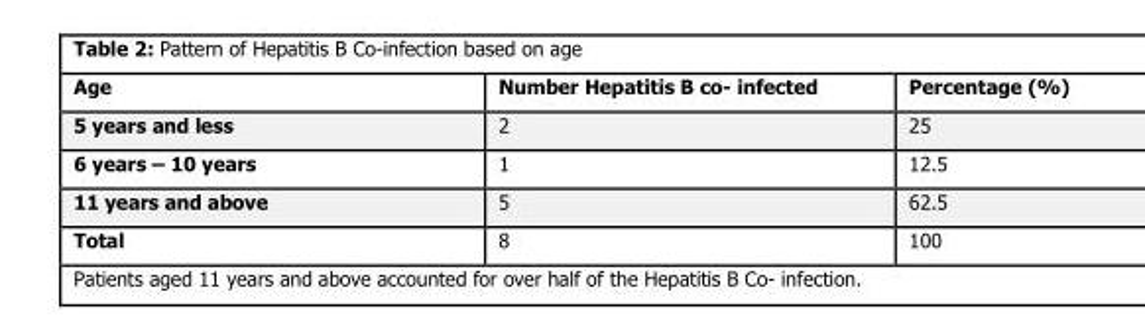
<table><thead><tr><td>Age</td><td>Number Hepatitis B co- infected</td><td>Percentage (%)</td></tr></thead><tbody><tr><td>5 years and less</td><td>2</td><td>25</td></tr><tr><td>6 years – 10 years</td><td>1</td><td>12.5</td></tr><tr><td>11 years and above</td><td>5</td><td>62.5</td></tr><tr><td>Total</td><td>8</td><td>100</td></tr></tbody></table>